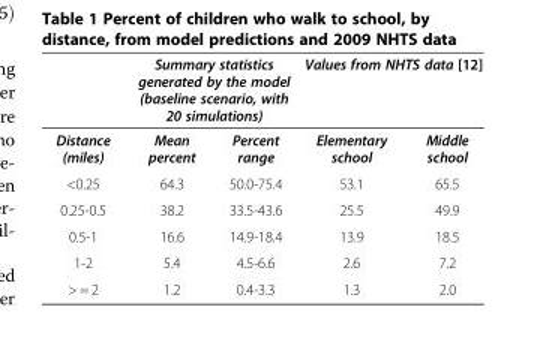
<table><thead><tr><td rowspan="2">Distance (miles)</td><td colspan="2">Summary statistics generated by the model (baseline scenario, with 20 simulations)</td><td colspan="2">Values from NHTS data [12]</td></tr><tr><td>Mean percent</td><td>Percent range</td><td>Elementary school</td><td>Middle school</td></tr></thead><tbody><tr><td>&lt;0.25</td><td>64.3</td><td>50.0-75.4</td><td>53.1</td><td>65.5</td></tr><tr><td>0.25-0.5</td><td>38.2</td><td>33.5-43.6</td><td>25.5</td><td>49.9</td></tr><tr><td>0.5-1</td><td>16.6</td><td>14.9-18.4</td><td>13.9</td><td>18.5</td></tr><tr><td>1-2</td><td>5.4</td><td>4.5-6.6</td><td>2.6</td><td>7.2</td></tr><tr><td>&gt; = 2</td><td>1.2</td><td>0.4-3.3</td><td>1.3</td><td>2.0</td></tr></tbody></table>